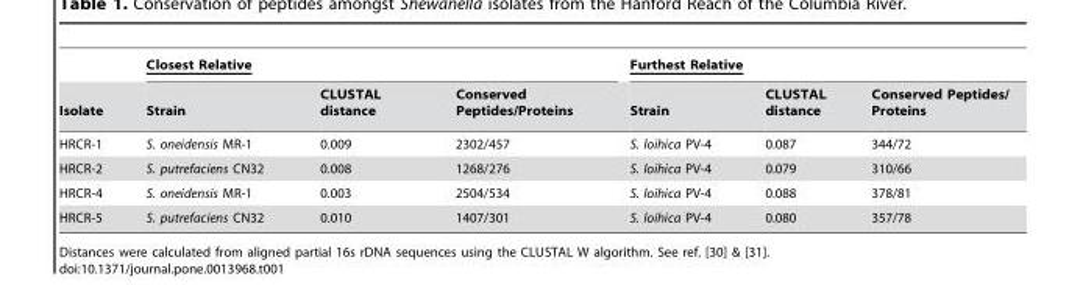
<table><thead><tr><td rowspan="2">Isolate</td><td colspan="3">Closest Relative</td><td colspan="3">Furthest Relative</td></tr><tr><td>Strain</td><td>CLUSTAL distance</td><td>Conserved Peptides/Proteins</td><td>Strain</td><td>CLUSTAL distance</td><td>Conserved Peptides/ Proteins</td></tr></thead><tbody><tr><td>HRCR-1</td><td>S. oneidensis MR-1</td><td>0.009</td><td>2302/457</td><td>S. loihica PV-4</td><td>0.087</td><td>344/72</td></tr><tr><td>HRCR-2</td><td>S. putrefaciens CN32</td><td>0.008</td><td>1268/276</td><td>S. loihica PV-4</td><td>0.079</td><td>310/66</td></tr><tr><td>HRCR-4</td><td>S. oneidensis MR-1</td><td>0.003</td><td>2504/534</td><td>S. loihica PV-4</td><td>0.088</td><td>378/81</td></tr><tr><td>HRCR-5</td><td>S. putrefaciens CN32</td><td>0.010</td><td>1407/301</td><td>S. loihica PV-4</td><td>0.080</td><td>357/78</td></tr></tbody></table>